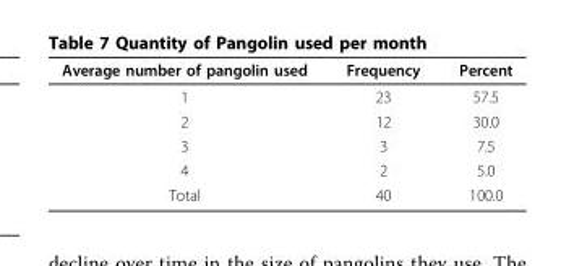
<table><thead><tr><td>Average number of pangolin used</td><td>Frequency</td><td>Percent</td></tr></thead><tbody><tr><td>1</td><td>23</td><td>57.5</td></tr><tr><td>2</td><td>12</td><td>30.0</td></tr><tr><td>3</td><td>3</td><td>7.5</td></tr><tr><td>4</td><td>2</td><td>5.0</td></tr><tr><td>Total</td><td>40</td><td>100.0</td></tr></tbody></table>